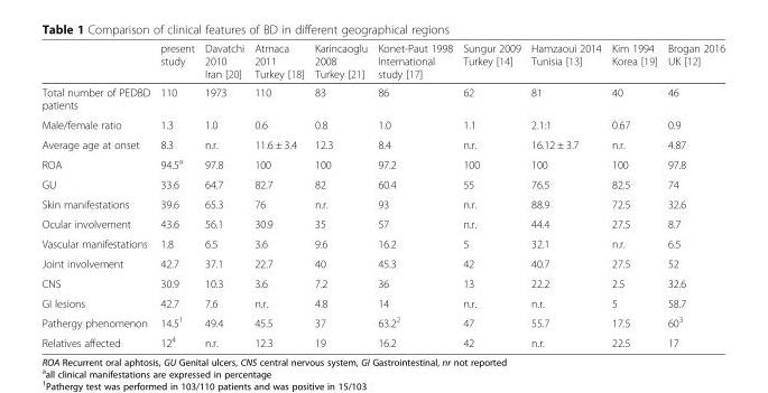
<table><thead><tr><td></td><td>present study</td><td>Davatchi 2010 Iran [20]</td><td>Atmaca 2011 Turkey [18]</td><td>Karincaoglu 2008 Turkey [21]</td><td>Konet-Paut 1998 International study [17]</td><td>Sungur 2009 Turkey [14]</td><td>Hamzaoui 2014 Tunisia [13]</td><td>Kim 1994 Korea [19]</td><td>Brogan 2016 UK [12]</td></tr></thead><tbody><tr><td>Total number of PEDBD patients</td><td>110</td><td>1973</td><td>110</td><td>83</td><td>86</td><td>62</td><td>81</td><td>40</td><td>46</td></tr><tr><td>Male/female ratio</td><td>1.3</td><td>1.0</td><td>0.6</td><td>0.8</td><td>1.0</td><td>1.1</td><td>2.1:1</td><td>0.67</td><td>0.9</td></tr><tr><td>Average age at onset</td><td>8.3</td><td>n.r.</td><td>11.6 ± 3.4</td><td>12.3</td><td>8.4</td><td>n.r.</td><td>16.12 ± 3.7</td><td>n.r.</td><td>4.87</td></tr><tr><td>ROA</td><td>94.5<sup>a</sup></td><td>97.8</td><td>100</td><td>100</td><td>97.2</td><td>100</td><td>100</td><td>100</td><td>97.8</td></tr><tr><td>GU</td><td>33.6</td><td>64.7</td><td>82.7</td><td>82</td><td>60.4</td><td>55</td><td>76.5</td><td>82.5</td><td>74</td></tr><tr><td>Skin manifestations</td><td>39.6</td><td>65.3</td><td>76</td><td>n.r.</td><td>93</td><td>n.r.</td><td>88.9</td><td>72.5</td><td>32.6</td></tr><tr><td>Ocular involvement</td><td>43.6</td><td>56.1</td><td>30.9</td><td>35</td><td>57</td><td>n.r.</td><td>44.4</td><td>27.5</td><td>8.7</td></tr><tr><td>Vascular manifestations</td><td>1.8</td><td>6.5</td><td>3.6</td><td>9.6</td><td>16.2</td><td>5</td><td>32.1</td><td>n.r.</td><td>6.5</td></tr><tr><td>Joint involvement</td><td>42.7</td><td>37.1</td><td>22.7</td><td>40</td><td>45.3</td><td>42</td><td>40.7</td><td>27.5</td><td>52</td></tr><tr><td>CNS</td><td>30.9</td><td>10.3</td><td>3.6</td><td>7.2</td><td>36</td><td>13</td><td>22.2</td><td>2.5</td><td>32.6</td></tr><tr><td>GI lesions</td><td>42.7</td><td>7.6</td><td>n.r.</td><td>4.8</td><td>14</td><td>n.r.</td><td>n.r.</td><td>5</td><td>58.7</td></tr><tr><td>Pathergy phenomenon</td><td>14.5<sup>1</sup></td><td>49.4</td><td>45.5</td><td>37</td><td>63.2<sup>2</sup></td><td>47</td><td>55.7</td><td>17.5</td><td>60<sup>3</sup></td></tr><tr><td>Relatives affected</td><td>12<sup>4</sup></td><td>n.r.</td><td>12.3</td><td>19</td><td>16.2</td><td>42</td><td>n.r.</td><td>22.5</td><td>17</td></tr></tbody></table>